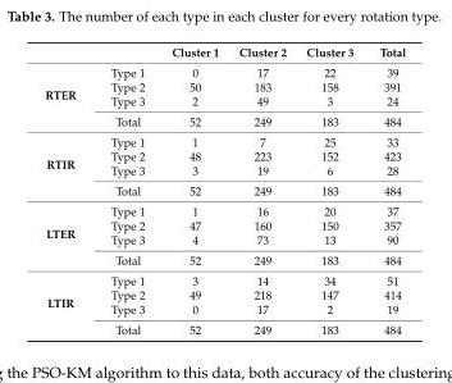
<table><thead><tr><td></td><td></td><td>Cluster 1</td><td>Cluster 2</td><td>Cluster 3</td><td>Total</td></tr></thead><tbody><tr><td rowspan="4">RTER</td><td>Type 1</td><td>0</td><td>17</td><td>22</td><td>39</td></tr><tr><td>Type 2</td><td>50</td><td>183</td><td>158</td><td>391</td></tr><tr><td>Type 3</td><td>2</td><td>49</td><td>3</td><td>24</td></tr><tr><td>Total</td><td>52</td><td>249</td><td>183</td><td>484</td></tr><tr><td rowspan="4">RTIR</td><td>Type 1</td><td>1</td><td>7</td><td>25</td><td>33</td></tr><tr><td>Type 2</td><td>48</td><td>223</td><td>152</td><td>423</td></tr><tr><td>Type 3</td><td>3</td><td>19</td><td>6</td><td>28</td></tr><tr><td>Total</td><td>52</td><td>249</td><td>183</td><td>484</td></tr><tr><td rowspan="4">LTER</td><td>Type 1</td><td>1</td><td>16</td><td>20</td><td>37</td></tr><tr><td>Type 2</td><td>47</td><td>160</td><td>150</td><td>357</td></tr><tr><td>Type 3</td><td>4</td><td>73</td><td>13</td><td>90</td></tr><tr><td>Total</td><td>52</td><td>249</td><td>183</td><td>484</td></tr><tr><td rowspan="4">LTIR</td><td>Type 1</td><td>3</td><td>14</td><td>34</td><td>51</td></tr><tr><td>Type 2</td><td>49</td><td>218</td><td>147</td><td>414</td></tr><tr><td>Type 3</td><td>0</td><td>17</td><td>2</td><td>19</td></tr><tr><td>Total</td><td>52</td><td>249</td><td>183</td><td>484</td></tr></tbody></table>